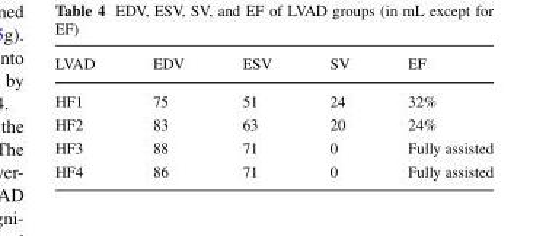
<table><thead><tr><td>LVAD</td><td>EDV</td><td>ESV</td><td>SV</td><td>EF</td></tr></thead><tbody><tr><td>HF1</td><td>75</td><td>51</td><td>24</td><td>32%</td></tr><tr><td>HF2</td><td>83</td><td>63</td><td>20</td><td>24%</td></tr><tr><td>HF3</td><td>88</td><td>71</td><td>0</td><td>Fully assisted</td></tr><tr><td>HF4</td><td>86</td><td>71</td><td>0</td><td>Fully assisted</td></tr></tbody></table>